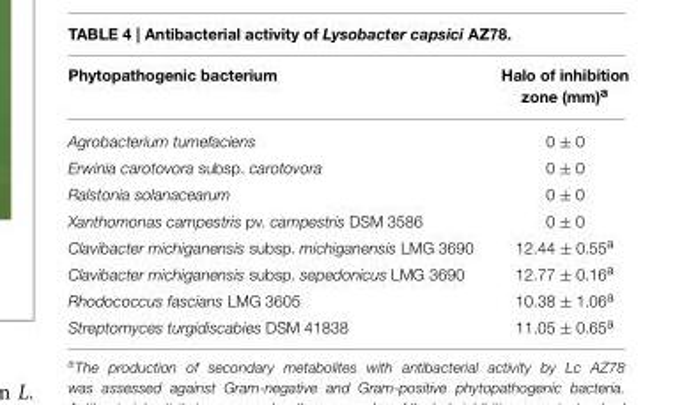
<table><thead><tr><td>Phytopathogenic bacterium</td><td>Halo of inhibition zone (mm)<sup>a</sup></td></tr></thead><tbody><tr><td>Agrobacterium tumefaciens</td><td>0 ± 0</td></tr><tr><td>Erwinia carotovora subsp. carotovora</td><td>0 ± 0</td></tr><tr><td>Ralstonia solanacearum</td><td>0 ± 0</td></tr><tr><td>Xanthomonas campestris pv. campestris DSM 3586</td><td>0 ± 0</td></tr><tr><td>Clavibacter michiganensis subsp. michiganensis LMG 3690</td><td>12.44 ± 0.55<sup>a</sup></td></tr><tr><td>Clavibacter michiganensis subsp. sepedonicus LMG 3690</td><td>12.77 ± 0.16<sup>a</sup></td></tr><tr><td>Rhodococcus fascians LMG 3605</td><td>10.38 ± 1.06<sup>a</sup></td></tr><tr><td>Streptomyces turgidiscabies DSM 41838</td><td>11.05 ± 0.65<sup>a</sup></td></tr></tbody></table>